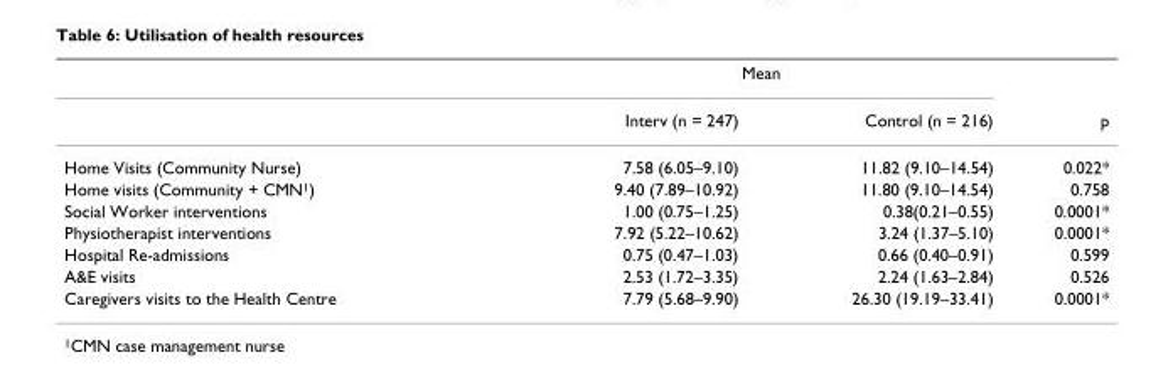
<table><thead><tr><td rowspan="2"></td><td colspan="2">Mean</td><td rowspan="2">p</td></tr><tr><td>Interv (n = 247)</td><td>Control (n = 216)</td></tr></thead><tbody><tr><td>Home Visits (Community Nurse)</td><td>7.58 (6.05–9.10)</td><td>11.82 (9.10–14.54)</td><td>0.022*</td></tr><tr><td>Home visits (Community + CMN<sup>1</sup>)</td><td>9.40 (7.89–10.92)</td><td>11.80 (9.10–14.54)</td><td>0.758</td></tr><tr><td>Social Worker interventions</td><td>1.00 (0.75–1.25)</td><td>0.38(0.21–0.55)</td><td>0.0001*</td></tr><tr><td>Physiotherapist interventions</td><td>7.92 (5.22–10.62)</td><td>3.24 (1.37–5.10)</td><td>0.0001*</td></tr><tr><td>Hospital Re-admissions</td><td>0.75 (0.47–1.03)</td><td>0.66 (0.40–0.91)</td><td>0.599</td></tr><tr><td>A&amp;E visits</td><td>2.53 (1.72–3.35)</td><td>2.24 (1.63–2.84)</td><td>0.526</td></tr><tr><td>Caregivers visits to the Health Centre</td><td>7.79 (5.68–9.90)</td><td>26.30 (19.19–33.41)</td><td>0.0001*</td></tr></tbody></table>